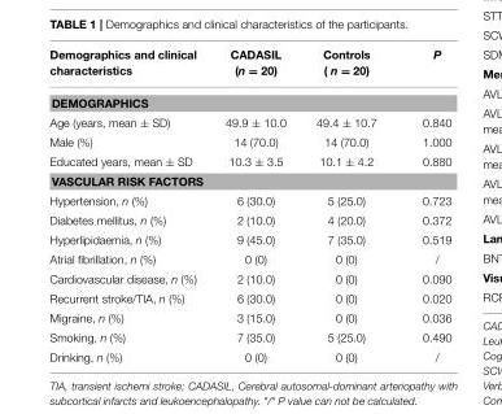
<table><thead><tr><td>Demographics and clinical characteristics</td><td>CADASIL (n = 20)</td><td>Controls ( n = 20)</td><td>P</td></tr></thead><tbody><tr><td colspan="4">DEMOGRAPHICS</td></tr><tr><td>Age (years, mean ± SD)</td><td>49.9 ± 10.0</td><td>49.4 ± 10.7</td><td>0.840</td></tr><tr><td>Male (%)</td><td>14 (70.0)</td><td>14 (70.0)</td><td>1.000</td></tr><tr><td>Educated years, mean ± SD</td><td>10.3 ± 3.5</td><td>10.1 ± 4.2</td><td>0.880</td></tr><tr><td colspan="4">VASCULAR RISK FACTORS</td></tr><tr><td>Hypertension, n (%)</td><td>6 (30.0)</td><td>5 (25.0)</td><td>0.723</td></tr><tr><td>Diabetes mellitus, n (%)</td><td>2 (10.0)</td><td>4 (20.0)</td><td>0.372</td></tr><tr><td>Hyperlipidaemia, n (%)</td><td>9 (45.0)</td><td>7 (35.0)</td><td>0.519</td></tr><tr><td>Atrial fibrillation, n (%)</td><td>0 (0)</td><td>0 (0)</td><td>/</td></tr><tr><td>Cardiovascular disease, n (%)</td><td>2 (10.0)</td><td>0 (0)</td><td>0.090</td></tr><tr><td>Recurrent stroke/TIA, n (%)</td><td>6 (30.0)</td><td>0 (0)</td><td>0.020</td></tr><tr><td>Migraine, n (%)</td><td>3 (15.0)</td><td>0 (0)</td><td>0.036</td></tr><tr><td>Smoking, n (%)</td><td>7 (35.0)</td><td>5 (25.0)</td><td>0.490</td></tr><tr><td>Drinking, n (%)</td><td>0 (0)</td><td>0 (0)</td><td>/</td></tr></tbody></table>